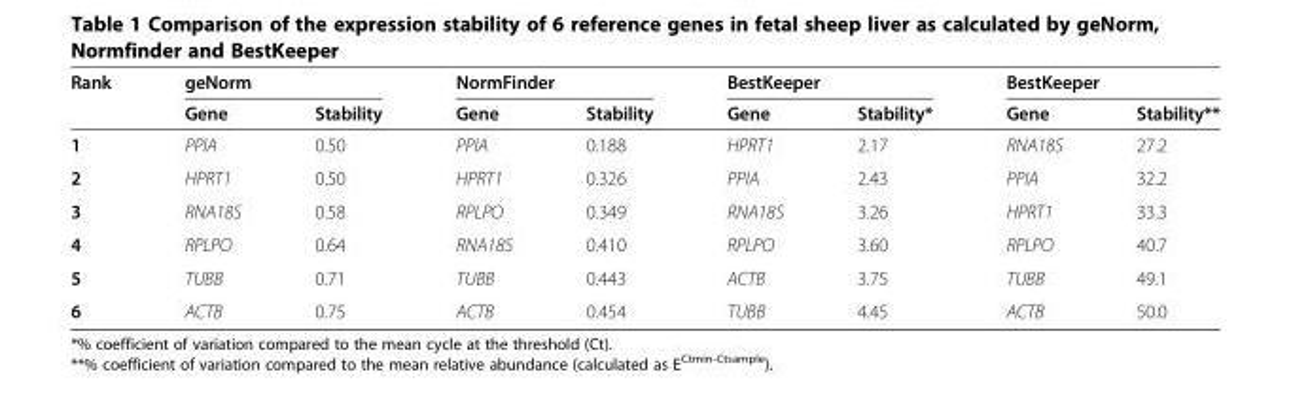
<table><thead><tr><td rowspan="2">Rank</td><td colspan="2">geNorm</td><td colspan="2">NormFinder</td><td colspan="2">BestKeeper</td><td colspan="2">BestKeeper</td></tr><tr><td>Gene</td><td>Stability</td><td>Gene</td><td>Stability</td><td>Gene</td><td>Stability*</td><td>Gene</td><td>Stability**</td></tr></thead><tbody><tr><td>1</td><td>PPIA</td><td>0.50</td><td>PPIA</td><td>0.188</td><td>HPRT1</td><td>2.17</td><td>RNA18S</td><td>27.2</td></tr><tr><td>2</td><td>HPRT1</td><td>0.50</td><td>HPRT1</td><td>0.326</td><td>PPIA</td><td>2.43</td><td>PPIA</td><td>32.2</td></tr><tr><td>3</td><td>RNA18S</td><td>0.58</td><td>RPLPO</td><td>0.349</td><td>RNA18S</td><td>3.26</td><td>HPRT1</td><td>33.3</td></tr><tr><td>4</td><td>RPLPO</td><td>0.64</td><td>RNA18S</td><td>0.410</td><td>RPLPO</td><td>3.60</td><td>RPLPO</td><td>40.7</td></tr><tr><td>5</td><td>TUBB</td><td>0.71</td><td>TUBB</td><td>0.443</td><td>ACTB</td><td>3.75</td><td>TUBB</td><td>49.1</td></tr><tr><td>6</td><td>ACTB</td><td>0.75</td><td>ACTB</td><td>0.454</td><td>TUBB</td><td>4.45</td><td>ACTB</td><td>50.0</td></tr></tbody></table>